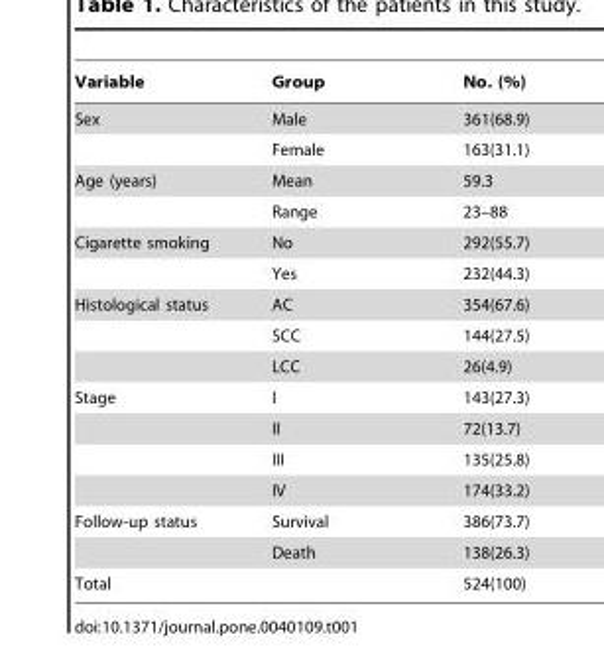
<table><thead><tr><td>Variable</td><td>Group</td><td>No. (%)</td></tr></thead><tbody><tr><td rowspan="2">Sex</td><td>Male</td><td>361(68.9)</td></tr><tr><td>Female</td><td>163(31.1)</td></tr><tr><td rowspan="2">Age (years)</td><td>Mean</td><td>59.3</td></tr><tr><td>Range</td><td>23–88</td></tr><tr><td rowspan="2">Cigarette smoking</td><td>No</td><td>292(55.7)</td></tr><tr><td>Yes</td><td>232(44.3)</td></tr><tr><td rowspan="3">Histological status</td><td>AC</td><td>354(67.6)</td></tr><tr><td>SCC</td><td>144(27.5)</td></tr><tr><td>LCC</td><td>26(4.9)</td></tr><tr><td rowspan="4">Stage</td><td>I</td><td>143(27.3)</td></tr><tr><td>II</td><td>72(13.7)</td></tr><tr><td>III</td><td>135(25.8)</td></tr><tr><td>IV</td><td>174(33.2)</td></tr><tr><td rowspan="2">Follow-up status</td><td>Survival</td><td>386(73.7)</td></tr><tr><td>Death</td><td>138(26.3)</td></tr><tr><td>Total</td><td></td><td>524(100)</td></tr></tbody></table>